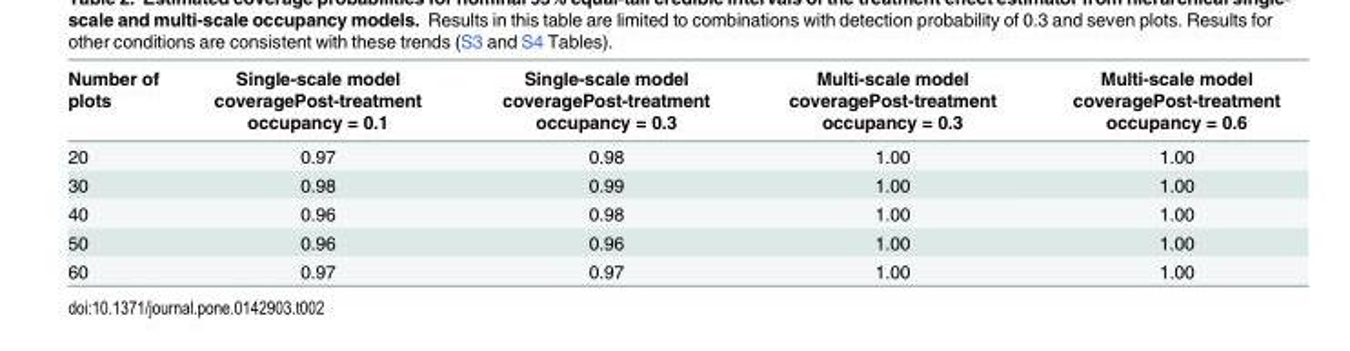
<table><thead><tr><td>Number of plots</td><td>Single-scale model coveragePost-treatment occupancy = 0.1</td><td>Single-scale model coveragePost-treatment occupancy = 0.3</td><td>Multi-scale model coveragePost-treatment occupancy = 0.3</td><td>Multi-scale model coveragePost-treatment occupancy = 0.6</td></tr></thead><tbody><tr><td>20</td><td>0.97</td><td>0.98</td><td>1.00</td><td>1.00</td></tr><tr><td>30</td><td>0.98</td><td>0.99</td><td>1.00</td><td>1.00</td></tr><tr><td>40</td><td>0.96</td><td>0.98</td><td>1.00</td><td>1.00</td></tr><tr><td>50</td><td>0.96</td><td>0.96</td><td>1.00</td><td>1.00</td></tr><tr><td>60</td><td>0.97</td><td>0.97</td><td>1.00</td><td>1.00</td></tr></tbody></table>